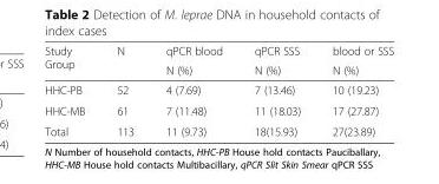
<table><thead><tr><td rowspan="2">Study Group</td><td rowspan="2">N</td><td rowspan="2">qPCR blood N (%)</td><td rowspan="2">qPCR SSS N (%)</td><td rowspan="2">blood or SSS N (%)</td></tr><tr></tr></thead><tbody><tr><td>HHC-PB</td><td>52</td><td>4 (7.69)</td><td>7 (13.46)</td><td>10 (19.23)</td></tr><tr><td>HHC-MB</td><td>61</td><td>7 (11.48)</td><td>11 (18.03)</td><td>17 (27.87)</td></tr><tr><td>Total</td><td>113</td><td>11 (9.73)</td><td>18(15.93)</td><td>27(23.89)</td></tr></tbody></table>